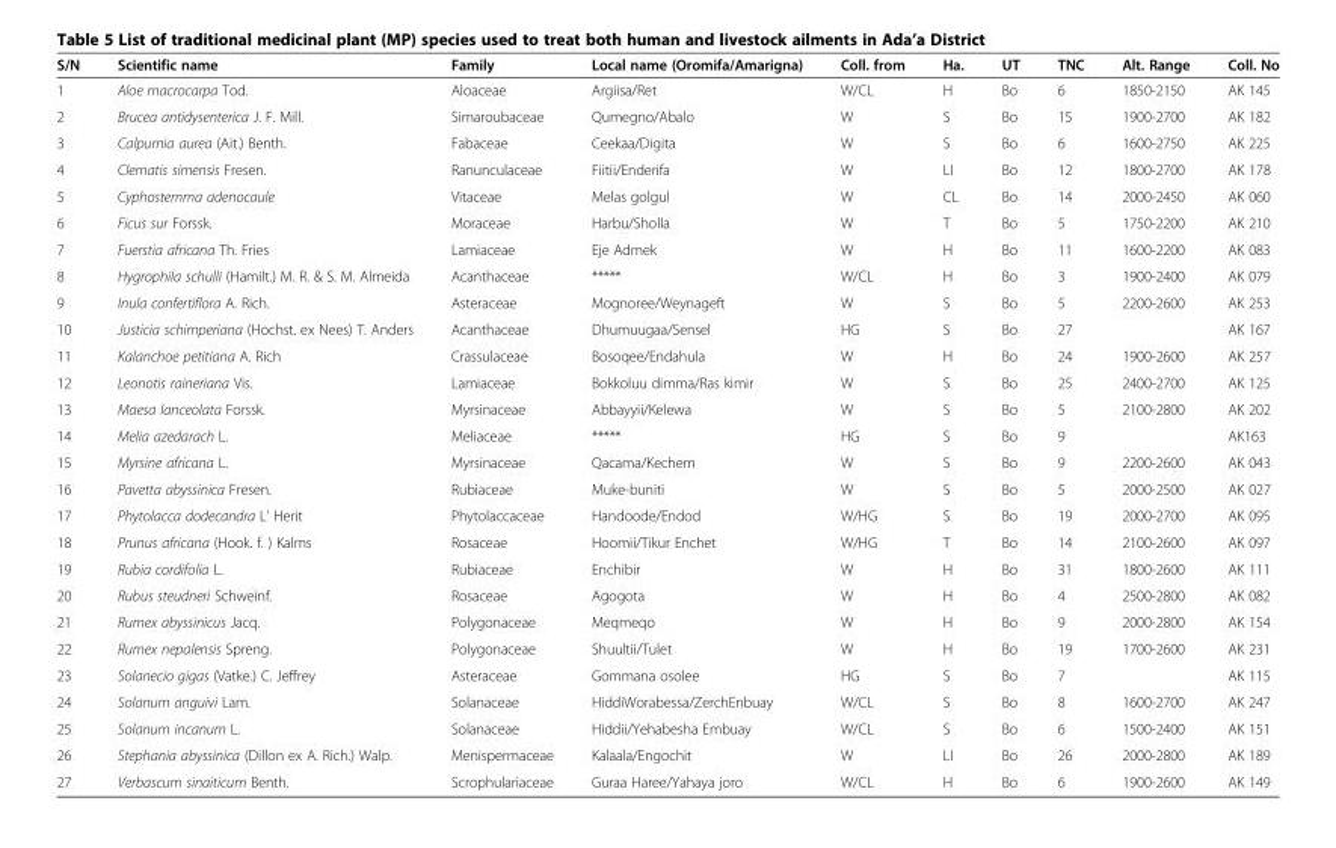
<table><thead><tr><td>S/N</td><td>Scientific name</td><td>Family</td><td>Local name (Oromifa/Amarigna)</td><td>Coll. from</td><td>Ha.</td><td>UT</td><td>TNC</td><td>Alt. Range</td><td>Coll. No</td></tr></thead><tbody><tr><td>1</td><td>Aloe macrocarpa Tod.</td><td>Aloaceae</td><td>Argiisa/Ret</td><td>W/CL</td><td>H</td><td>Bo</td><td>6</td><td>1850-2150</td><td>AK 145</td></tr><tr><td>2</td><td>Brucea antidysenterica J. F. Mill.</td><td>Simaroubaceae</td><td>Qumegno/Abalo</td><td>W</td><td>S</td><td>Bo</td><td>15</td><td>1900-2700</td><td>AK 182</td></tr><tr><td>3</td><td>Calpurnia aurea (Ait.) Benth.</td><td>Fabaceae</td><td>Ceekaa/Digita</td><td>W</td><td>S</td><td>Bo</td><td>6</td><td>1600-2750</td><td>AK 225</td></tr><tr><td>4</td><td>Clematis simensis Fresen.</td><td>Ranunculaceae</td><td>Fiitii/Enderifa</td><td>W</td><td>LI</td><td>Bo</td><td>12</td><td>1800-2700</td><td>AK 178</td></tr><tr><td>5</td><td>Cyphostemma adenocaule</td><td>Vitaceae</td><td>Melas golgul</td><td>W</td><td>CL</td><td>Bo</td><td>14</td><td>2000-2450</td><td>AK 060</td></tr><tr><td>6</td><td>Ficus sur Forssk.</td><td>Moraceae</td><td>Harbu/Sholla</td><td>W</td><td>T</td><td>Bo</td><td>5</td><td>1750-2200</td><td>AK 210</td></tr><tr><td>7</td><td>Fuerstia africana Th. Fries</td><td>Lamiaceae</td><td>Eje Admek</td><td>W</td><td>H</td><td>Bo</td><td>11</td><td>1600-2200</td><td>AK 083</td></tr><tr><td>8</td><td>Hygrophila schulli (Hamilt.) M. R. &amp; S. M. Almeida</td><td>Acanthaceae</td><td>*****</td><td>W/CL</td><td>H</td><td>Bo</td><td>3</td><td>1900-2400</td><td>AK 079</td></tr><tr><td>9</td><td>Inula confertiflora A. Rich.</td><td>Asteraceae</td><td>Mognoree/Weynageft</td><td>W</td><td>S</td><td>Bo</td><td>5</td><td>2200-2600</td><td>AK 253</td></tr><tr><td>10</td><td>Justicia schimperiana (Hochst. ex Nees) T. Anders</td><td>Acanthaceae</td><td>Dhumuugaa/Sensel</td><td>HG</td><td>S</td><td>Bo</td><td>27</td><td></td><td>AK 167</td></tr><tr><td>11</td><td>Kalanchoe petitiana A. Rich</td><td>Crassulaceae</td><td>Bosoqee/Endahula</td><td>W</td><td>H</td><td>Bo</td><td>24</td><td>1900-2600</td><td>AK 257</td></tr><tr><td>12</td><td>Leonotis raineriana Vis.</td><td>Lamiaceae</td><td>Bokkoluu dimma/Ras kimir</td><td>W</td><td>S</td><td>Bo</td><td>25</td><td>2400-2700</td><td>AK 125</td></tr><tr><td>13</td><td>Maesa lanceolata Forssk.</td><td>Myrsinaceae</td><td>Abbayyii/Kelewa</td><td>W</td><td>S</td><td>Bo</td><td>5</td><td>2100-2800</td><td>AK 202</td></tr><tr><td>14</td><td>Melia azedarach L.</td><td>Meliaceae</td><td>*****</td><td>HG</td><td>S</td><td>Bo</td><td>9</td><td></td><td>AK163</td></tr><tr><td>15</td><td>Myrsine africana L.</td><td>Myrsinaceae</td><td>Qacama/Kechem</td><td>W</td><td>S</td><td>Bo</td><td>9</td><td>2200-2600</td><td>AK 043</td></tr><tr><td>16</td><td>Pavetta abyssinica Fresen.</td><td>Rubiaceae</td><td>Muke-buniti</td><td>W</td><td>S</td><td>Bo</td><td>5</td><td>2000-2500</td><td>AK 027</td></tr><tr><td>17</td><td>Phytolacca dodecandra L’ Herit</td><td>Phytolaccaceae</td><td>Handoode/Endod</td><td>W/HG</td><td>S</td><td>Bo</td><td>19</td><td>2000-2700</td><td>AK 095</td></tr><tr><td>18</td><td>Prunus africana (Hook. f. ) Kalms</td><td>Rosaceae</td><td>Hoomii/Tikur Enchet</td><td>W/HG</td><td>T</td><td>Bo</td><td>14</td><td>2100-2600</td><td>AK 097</td></tr><tr><td>19</td><td>Rubia cordifolia L.</td><td>Rubiaceae</td><td>Enchibir</td><td>W</td><td>H</td><td>Bo</td><td>31</td><td>1800-2600</td><td>AK 111</td></tr><tr><td>20</td><td>Rubus steudneri Schweinf.</td><td>Rosaceae</td><td>Agogota</td><td>W</td><td>H</td><td>Bo</td><td>4</td><td>2500-2800</td><td>AK 082</td></tr><tr><td>21</td><td>Rumex abyssinicus Jacq.</td><td>Polygonaceae</td><td>Meqmeqo</td><td>W</td><td>H</td><td>Bo</td><td>9</td><td>2000-2800</td><td>AK 154</td></tr><tr><td>22</td><td>Rumex nepalensis Spreng.</td><td>Polygonaceae</td><td>Shuultii/Tulet</td><td>W</td><td>H</td><td>Bo</td><td>19</td><td>1700-2600</td><td>AK 231</td></tr><tr><td>23</td><td>Solanecio gigas (Vatke.) C. Jeffrey</td><td>Asteraceae</td><td>Gommana osolee</td><td>HG</td><td>S</td><td>Bo</td><td>7</td><td></td><td>AK 115</td></tr><tr><td>24</td><td>Solanum anguivi Lam.</td><td>Solanaceae</td><td>HiddiWorabessa/ZerchEnbuay</td><td>W/CL</td><td>S</td><td>Bo</td><td>8</td><td>1600-2700</td><td>AK 247</td></tr><tr><td>25</td><td>Solanum incanum L.</td><td>Solanaceae</td><td>Hiddii/Yehabesha Embuay</td><td>W/CL</td><td>S</td><td>Bo</td><td>6</td><td>1500-2400</td><td>AK 151</td></tr><tr><td>26</td><td>Stephania abyssinica (Dillon ex A. Rich.) Walp.</td><td>Menispermaceae</td><td>Kalaala/Engochit</td><td>W</td><td>LI</td><td>Bo</td><td>26</td><td>2000-2800</td><td>AK 189</td></tr><tr><td>27</td><td>Verbascum sinaiticum Benth.</td><td>Scrophulariaceae</td><td>Guraa Haree/Yahaya joro</td><td>W/CL</td><td>H</td><td>Bo</td><td>6</td><td>1900-2600</td><td>AK 149</td></tr></tbody></table>